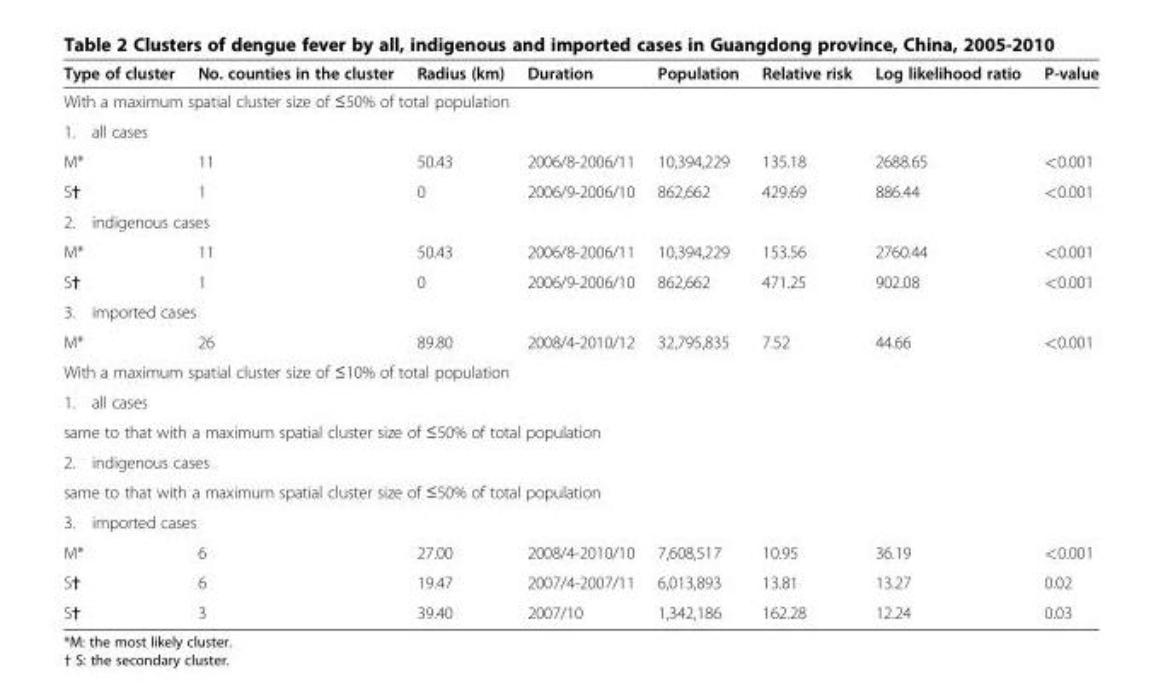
<table><thead><tr><td>Type of cluster</td><td>No. counties in the cluster</td><td>Radius (km)</td><td>Duration</td><td>Population</td><td>Relative risk</td><td>Log likelihood ratio</td><td>P-value</td></tr></thead><tbody><tr><td colspan="8">With a maximum spatial cluster size of ≤50% of total population</td></tr><tr><td colspan="8">1. all cases</td></tr><tr><td>M*</td><td>11</td><td>50.43</td><td>2006/8-2006/11</td><td>10,394,229</td><td>135.18</td><td>2688.65</td><td>&lt;0.001</td></tr><tr><td>S†</td><td>1</td><td>0</td><td>2006/9-2006/10</td><td>862,662</td><td>429.69</td><td>886.44</td><td>&lt;0.001</td></tr><tr><td colspan="8">2. indigenous cases</td></tr><tr><td>M*</td><td>11</td><td>50.43</td><td>2006/8-2006/11</td><td>10,394,229</td><td>153.56</td><td>2760.44</td><td>&lt;0.001</td></tr><tr><td>S†</td><td>1</td><td>0</td><td>2006/9-2006/10</td><td>862,662</td><td>471.25</td><td>902.08</td><td>&lt;0.001</td></tr><tr><td colspan="8">3. imported cases</td></tr><tr><td>M*</td><td>26</td><td>89.80</td><td>2008/4-2010/12</td><td>32,795,835</td><td>7.52</td><td>44.66</td><td>&lt;0.001</td></tr><tr><td colspan="8">With a maximum spatial cluster size of ≤10% of total population</td></tr><tr><td colspan="8">1. all cases</td></tr><tr><td colspan="8">same to that with a maximum spatial cluster size of ≤50% of total population</td></tr><tr><td colspan="8">2. indigenous cases</td></tr><tr><td colspan="8">same to that with a maximum spatial cluster size of ≤50% of total population</td></tr><tr><td colspan="8">3. imported cases</td></tr><tr><td>M*</td><td>6</td><td>27.00</td><td>2008/4-2010/10</td><td>7,608,517</td><td>10.95</td><td>36.19</td><td>&lt;0.001</td></tr><tr><td>S†</td><td>6</td><td>19.47</td><td>2007/4-2007/11</td><td>6,013,893</td><td>13.81</td><td>13.27</td><td>0.02</td></tr><tr><td>S†</td><td>3</td><td>39.40</td><td>2007/10</td><td>1,342,186</td><td>162.28</td><td>12.24</td><td>0.03</td></tr></tbody></table>